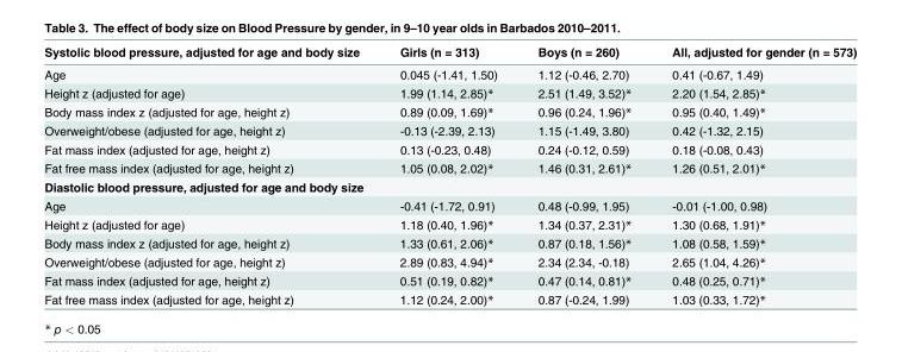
<table><thead><tr><td>Systolic blood pressure, adjusted for age and body size</td><td>Girls (n = 313)</td><td>Boys (n = 260)</td><td>All, adjusted for gender (n = 573)</td></tr></thead><tbody><tr><td>Age</td><td>0.045 (-1.41, 1.50)</td><td>1.12 (-0.46, 2.70)</td><td>0.41 (-0.67, 1.49)</td></tr><tr><td>Height z (adjusted for age)</td><td>1.99 (1.14, 2.85)*</td><td>2.51 (1.49, 3.52)*</td><td>2.20 (1.54, 2.85)*</td></tr><tr><td>Body mass index z (adjusted for age, height z)</td><td>0.89 (0.09, 1.69)*</td><td>0.96 (0.24, 1.96)*</td><td>0.95 (0.40, 1.49)*</td></tr><tr><td>Overweight/obese (adjusted for age, height z)</td><td>-0.13 (-2.39, 2.13)</td><td>1.15 (-1.49, 3.80)</td><td>0.42 (-1.32, 2.15)</td></tr><tr><td>Fat mass index (adjusted for age, height z)</td><td>0.13 (-0.23, 0.48)</td><td>0.24 (-0.12, 0.59)</td><td>0.18 (-0.08, 0.43)</td></tr><tr><td>Fat free mass index (adjusted for age, height z)</td><td>1.05 (0.08, 2.02)*</td><td>1.46 (0.31, 2.61)*</td><td>1.26 (0.51, 2.01)*</td></tr><tr><td colspan="4">Diastolic blood pressure, adjusted for age and body size</td></tr><tr><td>Age</td><td>-0.41 (-1.72, 0.91)</td><td>0.48 (-0.99, 1.95)</td><td>-0.01 (-1.00, 0.98)</td></tr><tr><td>Height z (adjusted for age)</td><td>1.18 (0.40, 1.96)*</td><td>1.34 (0.37, 2.31)*</td><td>1.30 (0.68, 1.91)*</td></tr><tr><td>Body mass index z (adjusted for age, height z)</td><td>1.33 (0.61, 2.06)*</td><td>0.87 (0.18, 1.56)*</td><td>1.08 (0.58, 1.59)*</td></tr><tr><td>Overweight/obese (adjusted for age, height z)</td><td>2.89 (0.83, 4.94)*</td><td>2.34 (2.34, -0.18)</td><td>2.65 (1.04, 4.26)*</td></tr><tr><td>Fat mass index (adjusted for age, height z)</td><td>0.51 (0.19, 0.82)*</td><td>0.47 (0.14, 0.81)*</td><td>0.48 (0.25, 0.71)*</td></tr><tr><td>Fat free mass index (adjusted for age, height z)</td><td>1.12 (0.24, 2.00)*</td><td>0.87 (-0.24, 1.99)</td><td>1.03 (0.33, 1.72)*</td></tr></tbody></table>